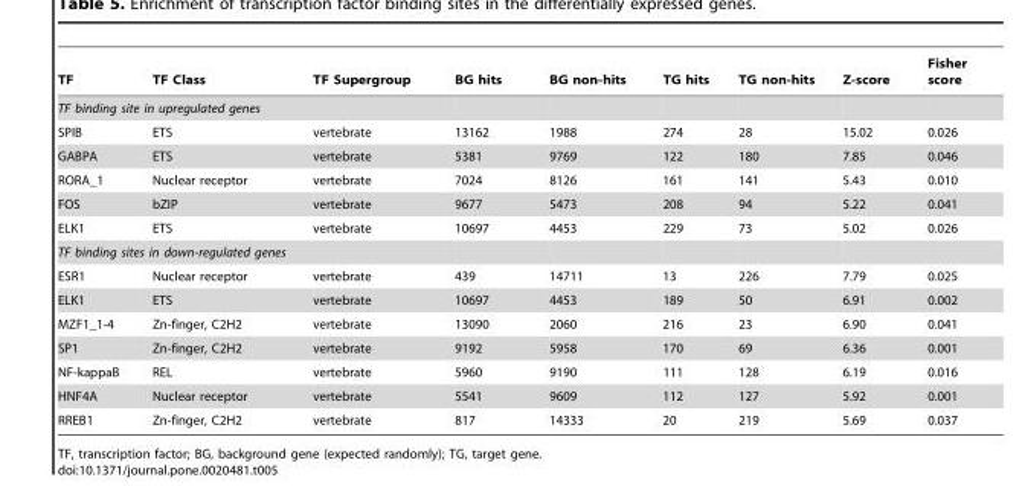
<table><thead><tr><td>TF</td><td>TF Class</td><td>TF Supergroup</td><td>BG hits</td><td>BG non-hits</td><td>TG hits</td><td>TG non-hits</td><td>Z-score</td><td>Fisher score</td></tr></thead><tbody><tr><td colspan="9">TF binding site in upregulated genes</td></tr><tr><td>SPIB</td><td>ETS</td><td>vertebrate</td><td>13162</td><td>1988</td><td>274</td><td>28</td><td>15.02</td><td>0.026</td></tr><tr><td>GABPA</td><td>ETS</td><td>vertebrate</td><td>5381</td><td>9769</td><td>122</td><td>180</td><td>7.85</td><td>0.046</td></tr><tr><td>RORA_1</td><td>Nuclear receptor</td><td>vertebrate</td><td>7024</td><td>8126</td><td>161</td><td>141</td><td>5.43</td><td>0.010</td></tr><tr><td>FOS</td><td>bZIP</td><td>vertebrate</td><td>9677</td><td>5473</td><td>208</td><td>94</td><td>5.22</td><td>0.041</td></tr><tr><td>ELK1</td><td>ETS</td><td>vertebrate</td><td>10697</td><td>4453</td><td>229</td><td>73</td><td>5.02</td><td>0.026</td></tr><tr><td colspan="9">TF binding sites in down-regulated genes</td></tr><tr><td>ESR1</td><td>Nuclear receptor</td><td>vertebrate</td><td>439</td><td>14711</td><td>13</td><td>226</td><td>7.79</td><td>0.025</td></tr><tr><td>ELK1</td><td>ETS</td><td>vertebrate</td><td>10697</td><td>4453</td><td>189</td><td>50</td><td>6.91</td><td>0.002</td></tr><tr><td>MZF1_1-4</td><td>Zn-finger, C2H2</td><td>vertebrate</td><td>13090</td><td>2060</td><td>216</td><td>23</td><td>6.90</td><td>0.041</td></tr><tr><td>SP1</td><td>Zn-finger, C2H2</td><td>vertebrate</td><td>9192</td><td>5958</td><td>170</td><td>69</td><td>6.36</td><td>0.001</td></tr><tr><td>NF-kappaB</td><td>REL</td><td>vertebrate</td><td>5960</td><td>9190</td><td>111</td><td>128</td><td>6.19</td><td>0.016</td></tr><tr><td>HNF4A</td><td>Nuclear receptor</td><td>vertebrate</td><td>5541</td><td>9609</td><td>112</td><td>127</td><td>5.92</td><td>0.001</td></tr><tr><td>RREB1</td><td>Zn-finger, C2H2</td><td>vertebrate</td><td>817</td><td>14333</td><td>20</td><td>219</td><td>5.69</td><td>0.037</td></tr></tbody></table>